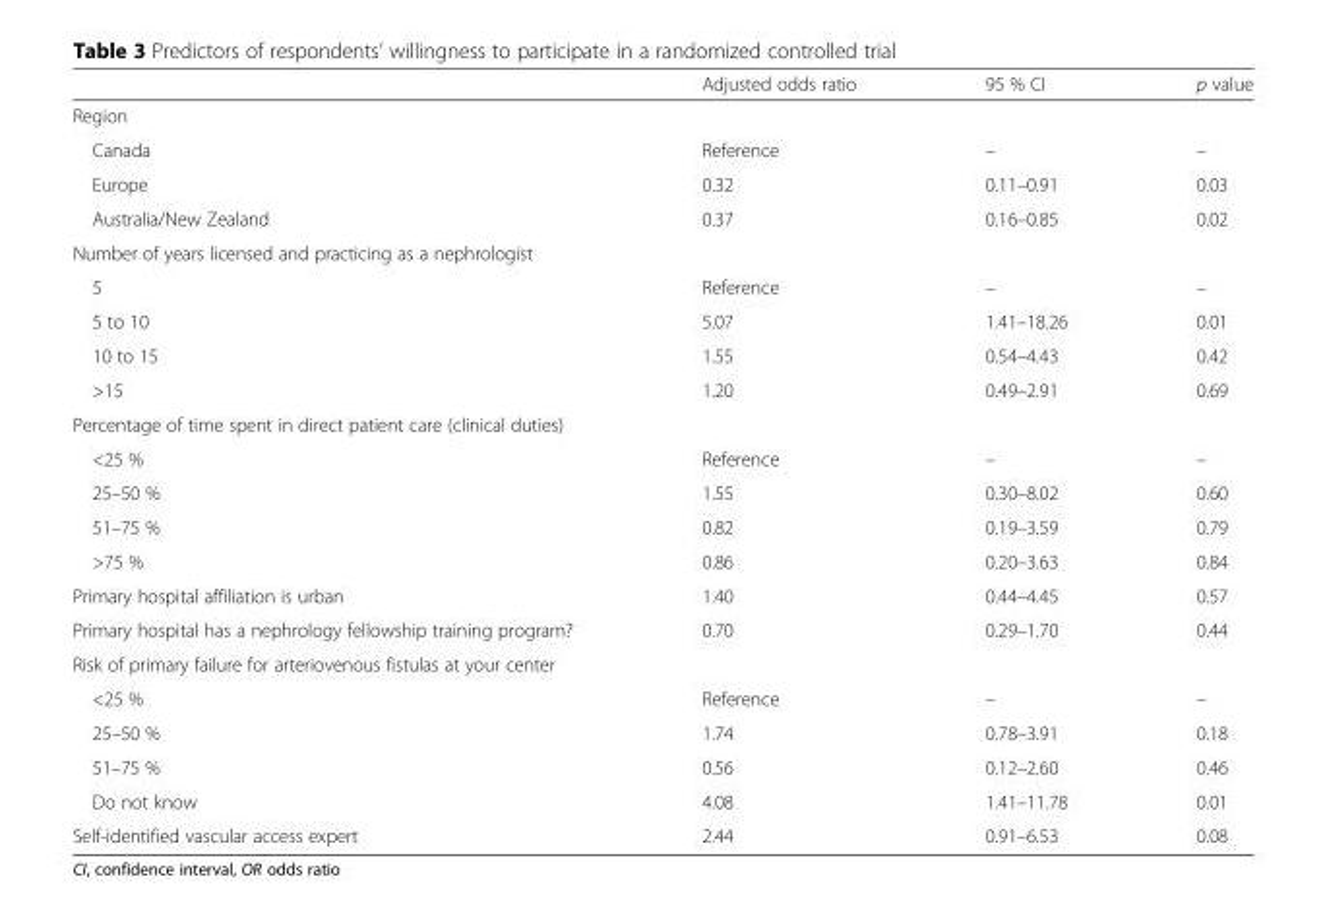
<table><thead><tr><td></td><td>Adjusted odds ratio</td><td>95 % CI</td><td>p value</td></tr></thead><tbody><tr><td colspan="4">Region</td></tr><tr><td>Canada</td><td>Reference</td><td>–</td><td>–</td></tr><tr><td>Europe</td><td>0.32</td><td>0.11–0.91</td><td>0.03</td></tr><tr><td>Australia/New Zealand</td><td>0.37</td><td>0.16–0.85</td><td>0.02</td></tr><tr><td colspan="4">Number of years licensed and practicing as a nephrologist</td></tr><tr><td>5</td><td>Reference</td><td>–</td><td>–</td></tr><tr><td>5 to 10</td><td>5.07</td><td>1.41–18.26</td><td>0.01</td></tr><tr><td>10 to 15</td><td>1.55</td><td>0.54–4.43</td><td>0.42</td></tr><tr><td>&gt;15</td><td>1.20</td><td>0.49–2.91</td><td>0.69</td></tr><tr><td colspan="4">Percentage of time spent in direct patient care (clinical duties)</td></tr><tr><td>&lt;25 %</td><td>Reference</td><td>–</td><td>–</td></tr><tr><td>25–50 %</td><td>1.55</td><td>0.30–8.02</td><td>0.60</td></tr><tr><td>51–75 %</td><td>0.82</td><td>0.19–3.59</td><td>0.79</td></tr><tr><td>&gt;75 %</td><td>0.86</td><td>0.20–3.63</td><td>0.84</td></tr><tr><td>Primary hospital affiliation is urban</td><td>1.40</td><td>0.44–4.45</td><td>0.57</td></tr><tr><td>Primary hospital has a nephrology fellowship training program?</td><td>0.70</td><td>0.29–1.70</td><td>0.44</td></tr><tr><td colspan="4">Risk of primary failure for arteriovenous fistulas at your center</td></tr><tr><td>&lt;25 %</td><td>Reference</td><td>–</td><td>–</td></tr><tr><td>25–50 %</td><td>1.74</td><td>0.78–3.91</td><td>0.18</td></tr><tr><td>51–75 %</td><td>0.56</td><td>0.12–2.60</td><td>0.46</td></tr><tr><td>Do not know</td><td>4.08</td><td>1.41–11.78</td><td>0.01</td></tr><tr><td>Self-identified vascular access expert</td><td>2.44</td><td>0.91–6.53</td><td>0.08</td></tr></tbody></table>